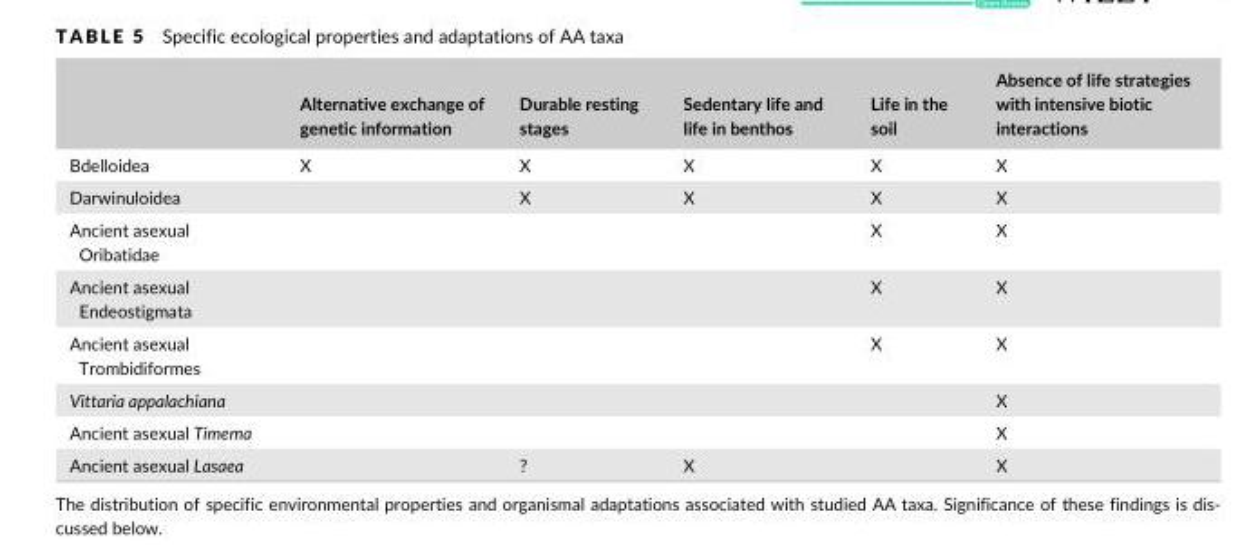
<table><thead><tr><td></td><td>Alternative exchange of genetic information</td><td>Durable resting stages</td><td>Sedentary life and life in benthos</td><td>Life in the soil</td><td>Absence of life strategies with intensive biotic interactions</td></tr></thead><tbody><tr><td>Bdelloidea</td><td>X</td><td>X</td><td>X</td><td>X</td><td>X</td></tr><tr><td>Darwinuloidea</td><td></td><td>X</td><td>X</td><td>X</td><td>X</td></tr><tr><td>Ancient asexual Oribatidae</td><td></td><td></td><td></td><td>X</td><td>X</td></tr><tr><td>Ancient asexual Endeostigmata</td><td></td><td></td><td></td><td>X</td><td>X</td></tr><tr><td>Ancient asexual Trombidiformes</td><td></td><td></td><td></td><td>X</td><td>X</td></tr><tr><td>Vittaria appalachiana</td><td></td><td></td><td></td><td></td><td>X</td></tr><tr><td>Ancient asexual Timema</td><td></td><td></td><td></td><td></td><td>X</td></tr><tr><td>Ancient asexual Lasaea</td><td></td><td>?</td><td>X</td><td></td><td>X</td></tr></tbody></table>